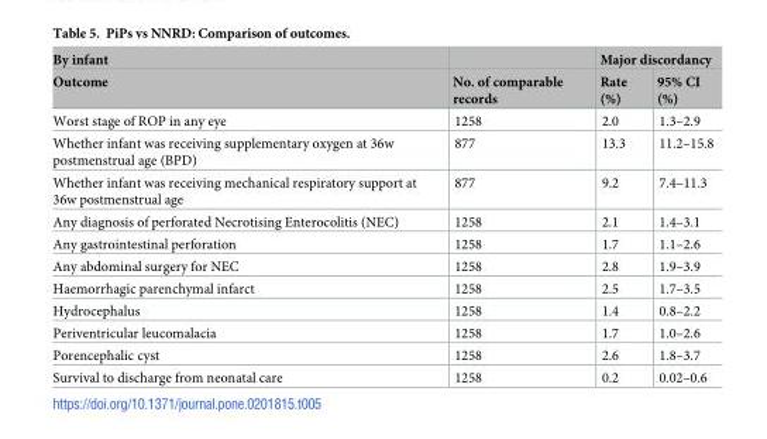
<table><thead><tr><td rowspan="2">By infant Outcome</td><td rowspan="2">No. of comparable records</td><td colspan="2">Major discordancy</td></tr><tr><td>Rate (%)</td><td>95% CI (%)</td></tr></thead><tbody><tr><td>Worst stage of ROP in any eye</td><td>1258</td><td>2.0</td><td>1.3–2.9</td></tr><tr><td>Whether infant was receiving supplementary oxygen at 36w postmenstrual age (BPD)</td><td>877</td><td>13.3</td><td>11.2–15.8</td></tr><tr><td>Whether infant was receiving mechanical respiratory support at 36w postmenstrual age</td><td>877</td><td>9.2</td><td>7.4–11.3</td></tr><tr><td>Any diagnosis of perforated Necrotising Enterocolitis (NEC)</td><td>1258</td><td>2.1</td><td>1.4–3.1</td></tr><tr><td>Any gastrointestinal perforation</td><td>1258</td><td>1.7</td><td>1.1–2.6</td></tr><tr><td>Any abdominal surgery for NEC</td><td>1258</td><td>2.8</td><td>1.9–3.9</td></tr><tr><td>Haemorrhagic parenchymal infarct</td><td>1258</td><td>2.5</td><td>1.7–3.5</td></tr><tr><td>Hydrocephalus</td><td>1258</td><td>1.4</td><td>0.8–2.2</td></tr><tr><td>Periventricular leucomalacia</td><td>1258</td><td>1.7</td><td>1.0–2.6</td></tr><tr><td>Porencephalic cyst</td><td>1258</td><td>2.6</td><td>1.8–3.7</td></tr><tr><td>Survival to discharge from neonatal care</td><td>1258</td><td>0.2</td><td>0.02–0.6</td></tr></tbody></table>